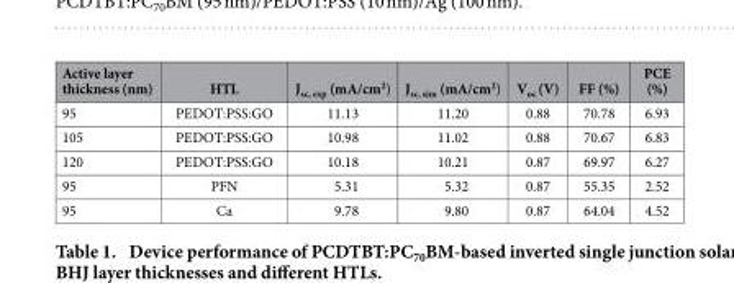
<table><thead><tr><td>Active layer thickness (nm)</td><td>HTL</td><td>J<sub>sc, exp</sub> (mA/cm<sup>2</sup>)</td><td>J<sub>sc, sim</sub> (mA/cm<sup>2</sup>)</td><td>V<sub>oc</sub> (V)</td><td>FF (%)</td><td>PCE (%)</td></tr></thead><tbody><tr><td>95</td><td>PEDOT:PSS:GO</td><td>11.13</td><td>11.20</td><td>0.88</td><td>70.78</td><td>6.93</td></tr><tr><td>105</td><td>PEDOT:PSS:GO</td><td>10.98</td><td>11.02</td><td>0.88</td><td>70.67</td><td>6.83</td></tr><tr><td>120</td><td>PEDOT:PSS:GO</td><td>10.18</td><td>10.21</td><td>0.87</td><td>69.97</td><td>6.27</td></tr><tr><td>95</td><td>PFN</td><td>5.31</td><td>5.32</td><td>0.87</td><td>55.35</td><td>2.52</td></tr><tr><td>95</td><td>Ca</td><td>9.78</td><td>9.80</td><td>0.87</td><td>64.04</td><td>4.52</td></tr></tbody></table>